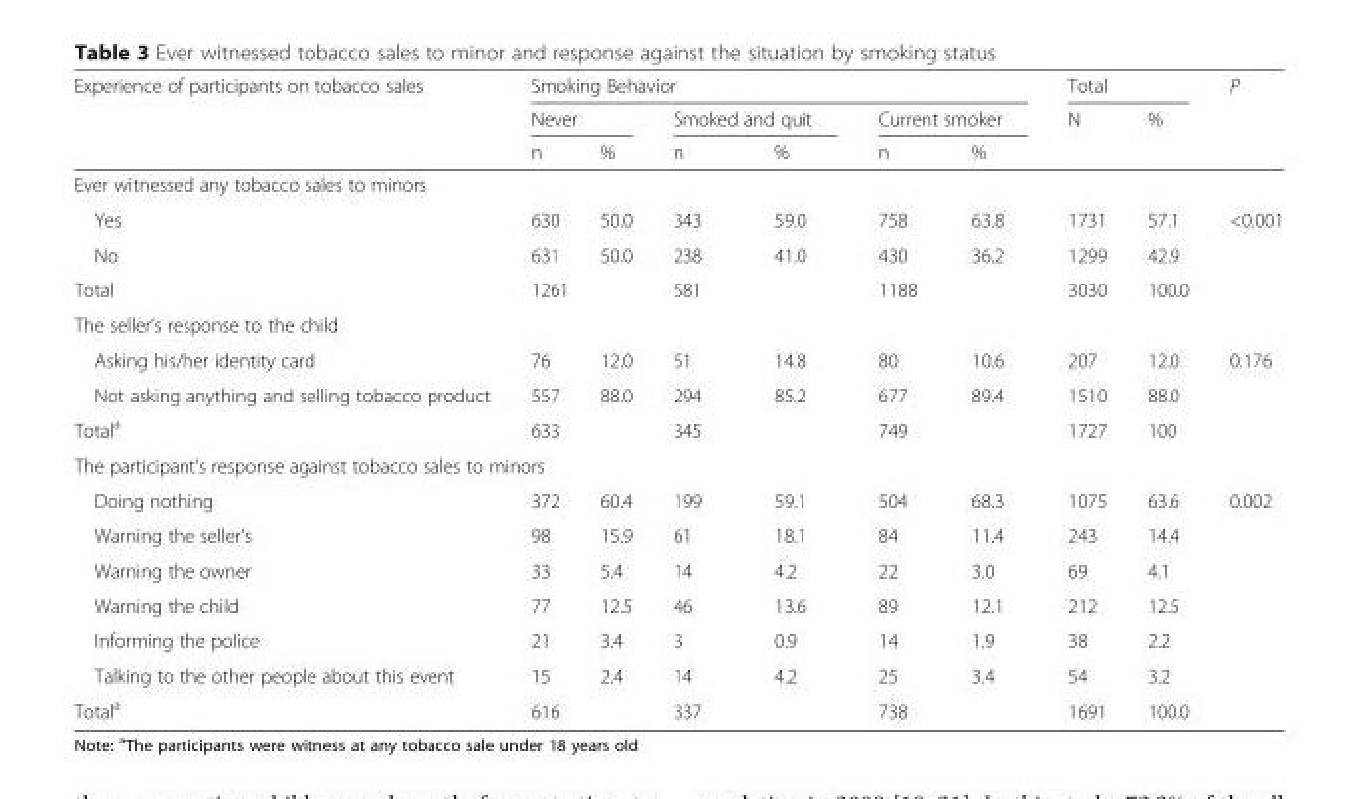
<table><thead><tr><td rowspan="3">Experience of participants on tobacco sales</td><td colspan="6">Smoking Behavior</td><td colspan="2">Total</td><td rowspan="3">P</td></tr><tr><td colspan="2">Never</td><td colspan="2">Smoked and quit</td><td colspan="2">Current smoker</td><td rowspan="2">N</td><td rowspan="2">%</td></tr><tr><td>n</td><td>%</td><td>n</td><td>%</td><td>n</td><td>%</td></tr></thead><tbody><tr><td colspan="10">Ever witnessed any tobacco sales to minors</td></tr><tr><td>Yes</td><td>630</td><td>50.0</td><td>343</td><td>59.0</td><td>758</td><td>63.8</td><td>1731</td><td>57.1</td><td rowspan="3">&lt;0.001</td></tr><tr><td>No</td><td>631</td><td>50.0</td><td>238</td><td>41.0</td><td>430</td><td>36.2</td><td>1299</td><td>42.9</td></tr><tr><td>Total</td><td colspan="2">1261</td><td colspan="2">581</td><td colspan="2">1188</td><td>3030</td><td>100.0</td></tr><tr><td colspan="10">The seller’s response to the child</td></tr><tr><td>Asking his/her identity card</td><td>76</td><td>12.0</td><td>51</td><td>14.8</td><td>80</td><td>10.6</td><td>207</td><td>12.0</td><td rowspan="3">0.176</td></tr><tr><td>Not asking anything and selling tobacco product</td><td>557</td><td>88.0</td><td>294</td><td>85.2</td><td>677</td><td>89.4</td><td>1510</td><td>88.0</td></tr><tr><td>Total<sup>a</sup></td><td colspan="2">633</td><td colspan="2">345</td><td colspan="2">749</td><td>1727</td><td>100</td></tr><tr><td colspan="10">The participant’s response against tobacco sales to minors</td></tr><tr><td>Doing nothing</td><td>372</td><td>60.4</td><td>199</td><td>59.1</td><td>504</td><td>68.3</td><td>1075</td><td>63.6</td><td rowspan="7">0.002</td></tr><tr><td>Warning the seller’s</td><td>98</td><td>15.9</td><td>61</td><td>18.1</td><td>84</td><td>11.4</td><td>243</td><td>14.4</td></tr><tr><td>Warning the owner</td><td>33</td><td>5.4</td><td>14</td><td>4.2</td><td>22</td><td>3.0</td><td>69</td><td>4.1</td></tr><tr><td>Warning the child</td><td>77</td><td>12.5</td><td>46</td><td>13.6</td><td>89</td><td>12.1</td><td>212</td><td>12.5</td></tr><tr><td>Informing the police</td><td>21</td><td>3.4</td><td>3</td><td>0.9</td><td>14</td><td>1.9</td><td>38</td><td>2.2</td></tr><tr><td>Talking to the other people about this event</td><td>15</td><td>2.4</td><td>14</td><td>4.2</td><td>25</td><td>3.4</td><td>54</td><td>3.2</td></tr><tr><td>Total<sup>a</sup></td><td colspan="2">616</td><td colspan="2">337</td><td colspan="2">738</td><td>1691</td><td>100.0</td></tr></tbody></table>